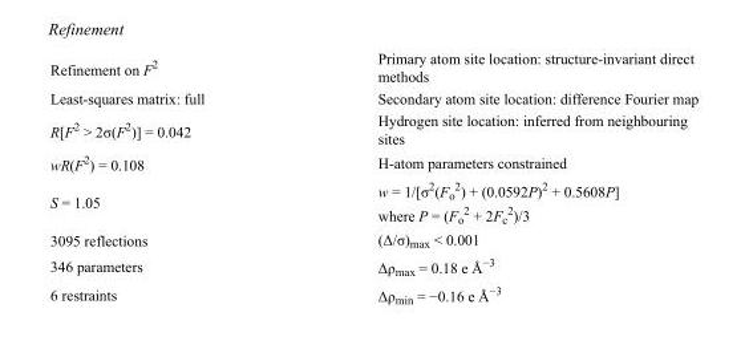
<table><tbody><tr><td>Refinement on F<sup>2</sup></td><td>Primary atom site location: structure-invariant direct methods</td></tr><tr><td>Least-squares matrix: full</td><td>Secondary atom site location: difference Fourier map</td></tr><tr><td>R[F<sup>2</sup> &gt; 2σ(F<sup>2</sup>)] = 0.042</td><td>Hydrogen site location: inferred from neighbouring sites</td></tr><tr><td>wR(F<sup>2</sup>) = 0.108</td><td>H-atom parameters constrained</td></tr><tr><td>S = 1.05</td><td>w = 1/[σ<sup>2</sup>(F<sub>o</sub> <sup>2</sup>) + (0.0592P)<sup>2</sup> + 0.5608P] where P = (F<sub>o</sub> <sup>2</sup> + 2F<sub>c</sub> <sup>2</sup>)/3</td></tr><tr><td>3095 reflections</td><td>(Δ/σ)<sub>max</sub> &lt; 0.001</td></tr><tr><td>346 parameters</td><td>Δρ<sub>max</sub> = 0.18 e Å<sup>−3</sup></td></tr><tr><td>6 restraints</td><td>Δρ<sub>min</sub> = −0.16 e Å<sup>−3</sup></td></tr></tbody></table>